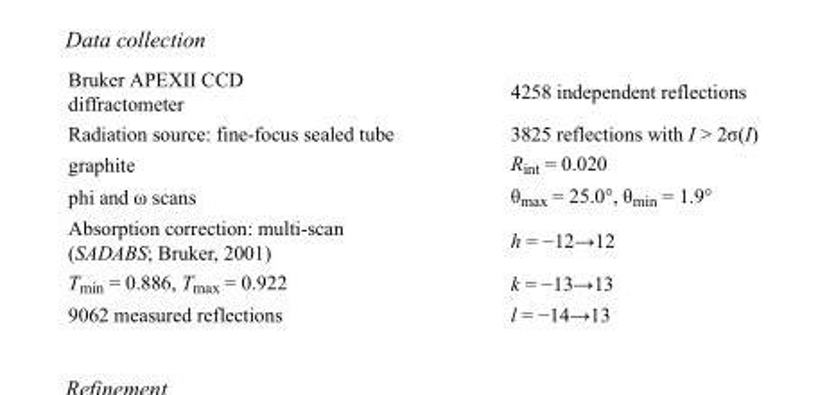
<table><tbody><tr><td>Bruker APEXII CCD diffractometer</td><td>4258 independent reflections</td></tr><tr><td>Radiation source: fine-focus sealed tube</td><td>3825 reflections with I &gt; 2σ(I)</td></tr><tr><td>graphite</td><td>R<sub>int</sub> = 0.020</td></tr><tr><td>phi and ω scans</td><td>θ<sub>max</sub> = 25.0°, θ<sub>min</sub> = 1.9°</td></tr><tr><td>Absorption correction: multi-scan (SADABS; Bruker, 2001)</td><td>h = −12→12</td></tr><tr><td>T<sub>min</sub> = 0.886, T<sub>max</sub> = 0.922</td><td>k = −13→13</td></tr><tr><td>9062 measured reflections</td><td>l = −14→13</td></tr></tbody></table>